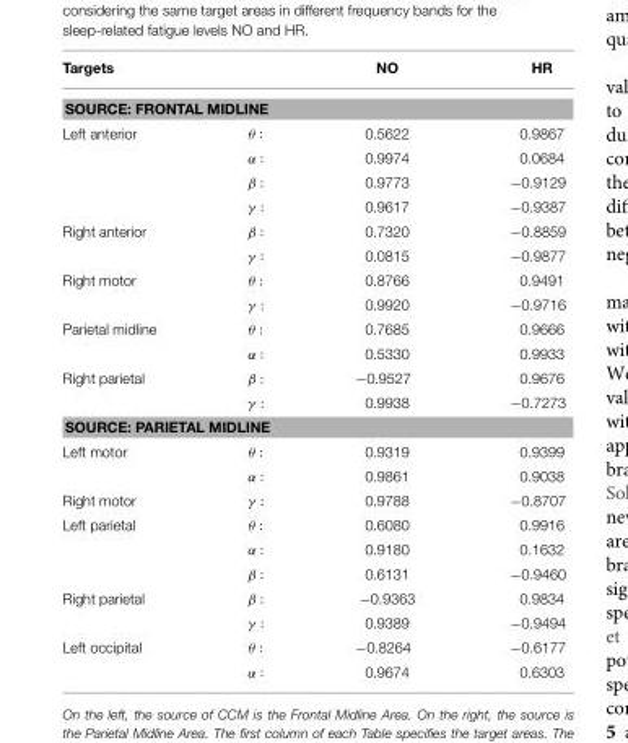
<table><thead><tr><td>Targets</td><td></td><td>NO</td><td>HR</td></tr></thead><tbody><tr><td colspan="4">SOURCE: FRONTAL MIDLINE</td></tr><tr><td rowspan="4">Left anterior</td><td>θ :</td><td>0.5622</td><td>0.9867</td></tr><tr><td>α :</td><td>0.9974</td><td>0.0684</td></tr><tr><td>β :</td><td>0.9773</td><td>−0.9129</td></tr><tr><td>γ :</td><td>0.9617</td><td>−0.9387</td></tr><tr><td rowspan="2">Right anterior</td><td>β :</td><td>0.7320</td><td>−0.8859</td></tr><tr><td>γ :</td><td>0.0815</td><td>−0.9877</td></tr><tr><td rowspan="2">Right motor</td><td>θ :</td><td>0.8766</td><td>0.9491</td></tr><tr><td>γ :</td><td>0.9920</td><td>−0.9716</td></tr><tr><td rowspan="2">Parietal midline</td><td>θ :</td><td>0.7685</td><td>0.9666</td></tr><tr><td>α :</td><td>0.5330</td><td>0.9933</td></tr><tr><td rowspan="2">Right parietal</td><td>β :</td><td>−0.9527</td><td>0.9676</td></tr><tr><td>γ :</td><td>0.9938</td><td>−0.7273</td></tr><tr><td colspan="4">SOURCE: PARIETAL MIDLINE</td></tr><tr><td rowspan="2">Left motor</td><td>θ :</td><td>0.9319</td><td>0.9399</td></tr><tr><td>α :</td><td>0.9861</td><td>0.9038</td></tr><tr><td>Right motor</td><td>γ :</td><td>0.9788</td><td>−0.8707</td></tr><tr><td rowspan="3">Left parietal</td><td>θ :</td><td>0.6080</td><td>0.9916</td></tr><tr><td>α :</td><td>0.9180</td><td>0.1632</td></tr><tr><td>β :</td><td>0.6131</td><td>−0.9460</td></tr><tr><td rowspan="2">Right parietal</td><td>β :</td><td>−0.9363</td><td>0.9834</td></tr><tr><td>γ :</td><td>0.9389</td><td>−0.9494</td></tr><tr><td rowspan="2">Left occipital</td><td>θ :</td><td>−0.8264</td><td>−0.6177</td></tr><tr><td>α :</td><td>0.9674</td><td>0.6303</td></tr></tbody></table>